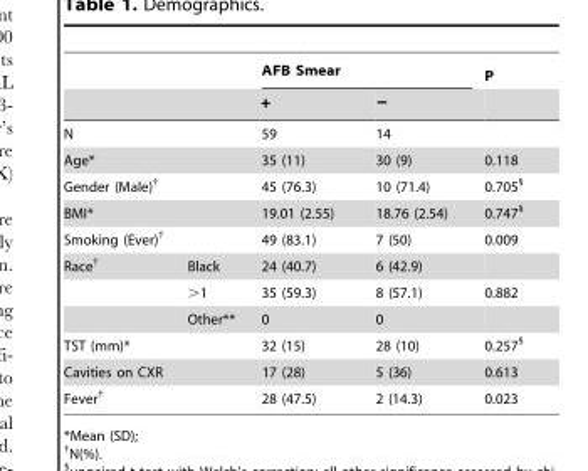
<table><thead><tr><td rowspan="2"></td><td rowspan="2"></td><td colspan="2">AFB Smear</td><td rowspan="2">P</td></tr><tr><td>+</td><td>−</td></tr></thead><tbody><tr><td colspan="2">N</td><td>59</td><td>14</td><td></td></tr><tr><td colspan="2">Age*</td><td>35 (11)</td><td>30 (9)</td><td>0.118</td></tr><tr><td colspan="2">Gender (Male)†</td><td>45 (76.3)</td><td>10 (71.4)</td><td>0.705§</td></tr><tr><td colspan="2">BMI*</td><td>19.01 (2.55)</td><td>18.76 (2.54)</td><td>0.747§</td></tr><tr><td colspan="2">Smoking (Ever)†</td><td>49 (83.1)</td><td>7 (50)</td><td>0.009</td></tr><tr><td rowspan="3">Race†</td><td>Black</td><td>24 (40.7)</td><td>6 (42.9)</td><td></td></tr><tr><td>&gt;1</td><td>35 (59.3)</td><td>8 (57.1)</td><td>0.882</td></tr><tr><td>Other**</td><td>0</td><td>0</td><td></td></tr><tr><td colspan="2">TST (mm)*</td><td>32 (15)</td><td>28 (10)</td><td>0.257§</td></tr><tr><td colspan="2">Cavities on CXR</td><td>17 (28)</td><td>5 (36)</td><td>0.613</td></tr><tr><td colspan="2">Fever†</td><td>28 (47.5)</td><td>2 (14.3)</td><td>0.023</td></tr></tbody></table>